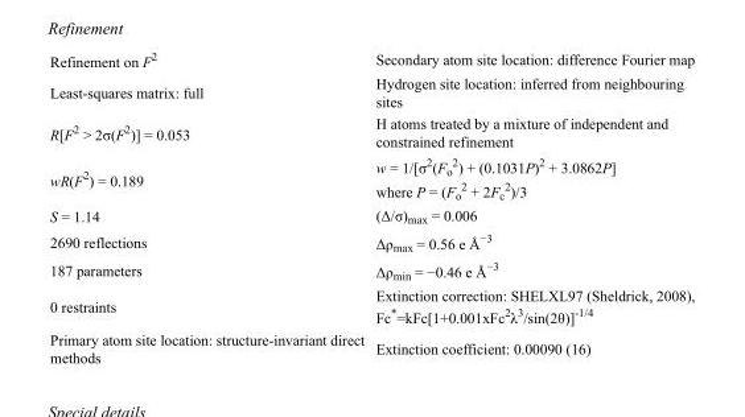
<table><tbody><tr><td>Refinement on F<sup>2</sup></td><td>Secondary atom site location: difference Fourier map</td></tr><tr><td>Least-squares matrix: full</td><td>Hydrogen site location: inferred from neighbouring sites</td></tr><tr><td>R[F<sup>2</sup> &gt; 2σ(F<sup>2</sup>)] = 0.053</td><td>H atoms treated by a mixture of independent and constrained refinement</td></tr><tr><td>wR(F<sup>2</sup>) = 0.189</td><td>w = 1/[σ<sup>2</sup>(F<sub>o</sub> <sup>2</sup>) + (0.1031P)<sup>2</sup> + 3.0862P] where P = (F<sub>o</sub> <sup>2</sup> + 2F<sub>c</sub> <sup>2</sup>)/3</td></tr><tr><td>S = 1.14</td><td>(Δ/σ)<sub>max</sub> = 0.006</td></tr><tr><td>2690 reflections</td><td>Δρ<sub>max</sub> = 0.56 e Å<sup>−3</sup></td></tr><tr><td>187 parameters</td><td>Δρ<sub>min</sub> = −0.46 e Å<sup>−3</sup></td></tr><tr><td>0 restraints</td><td>Extinction correction: SHELXL97 (Sheldrick, 2008), Fc*=kFc[1+0.001xFc<sup>2</sup>λ<sup>3</sup>/sin(2θ)]<sup>-1/4</sup></td></tr><tr><td>Primary atom site location: structure-invariant direct methods</td><td>Extinction coefficient: 0.00090 (16)</td></tr></tbody></table>